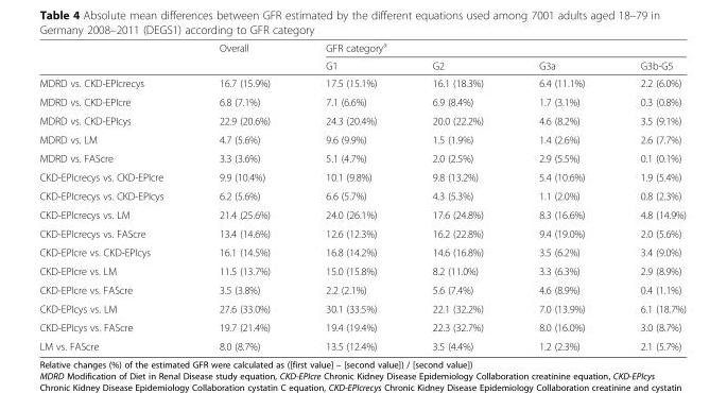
<table><thead><tr><td rowspan="2"></td><td rowspan="2">Overall</td><td colspan="4">GFR category<sup>a</sup></td></tr><tr><td>G1</td><td>G2</td><td>G3a</td><td>G3b-G5</td></tr></thead><tbody><tr><td>MDRD vs. CKD-EPIcrecys</td><td>16.7 (15.9%)</td><td>17.5 (15.1%)</td><td>16.1 (18.3%)</td><td>6.4 (11.1%)</td><td>2.2 (6.0%)</td></tr><tr><td>MDRD vs. CKD-EPIcre</td><td>6.8 (7.1%)</td><td>7.1 (6.6%)</td><td>6.9 (8.4%)</td><td>1.7 (3.1%)</td><td>0.3 (0.8%)</td></tr><tr><td>MDRD vs. CKD-EPIcys</td><td>22.9 (20.6%)</td><td>24.3 (20.4%)</td><td>20.0 (22.2%)</td><td>4.6 (8.2%)</td><td>3.5 (9.1%)</td></tr><tr><td>MDRD vs. LM</td><td>4.7 (5.6%)</td><td>9.6 (9.9%)</td><td>1.5 (1.9%)</td><td>1.4 (2.6%)</td><td>2.6 (7.7%)</td></tr><tr><td>MDRD vs. FAScre</td><td>3.3 (3.6%)</td><td>5.1 (4.7%)</td><td>2.0 (2.5%)</td><td>2.9 (5.5%)</td><td>0.1 (0.1%)</td></tr><tr><td>CKD-EPIcrecys vs. CKD-EPIcre</td><td>9.9 (10.4%)</td><td>10.1 (9.8%)</td><td>9.8 (13.2%)</td><td>5.4 (10.6%)</td><td>1.9 (5.4%)</td></tr><tr><td>CKD-EPIcrecys vs. CKD-EPIcys</td><td>6.2 (5.6%)</td><td>6.6 (5.7%)</td><td>4.3 (5.3%)</td><td>1.1 (2.0%)</td><td>0.8 (2.3%)</td></tr><tr><td>CKD-EPIcrecys vs. LM</td><td>21.4 (25.6%)</td><td>24.0 (26.1%)</td><td>17.6 (24.8%)</td><td>8.3 (16.6%)</td><td>4.8 (14.9%)</td></tr><tr><td>CKD-EPIcrecys vs. FAScre</td><td>13.4 (14.6%)</td><td>12.6 (12.3%)</td><td>16.2 (22.8%)</td><td>9.4 (19.0%)</td><td>2.0 (5.6%)</td></tr><tr><td>CKD-EPIcre vs. CKD-EPIcys</td><td>16.1 (14.5%)</td><td>16.8 (14.2%)</td><td>14.6 (16.8%)</td><td>3.5 (6.2%)</td><td>3.4 (9.0%)</td></tr><tr><td>CKD-EPIcre vs. LM</td><td>11.5 (13.7%)</td><td>15.0 (15.8%)</td><td>8.2 (11.0%)</td><td>3.3 (6.3%)</td><td>2.9 (8.9%)</td></tr><tr><td>CKD-EPIcre vs. FAScre</td><td>3.5 (3.8%)</td><td>2.2 (2.1%)</td><td>5.6 (7.4%)</td><td>4.6 (8.9%)</td><td>0.4 (1.1%)</td></tr><tr><td>CKD-EPIcys vs. LM</td><td>27.6 (33.0%)</td><td>30.1 (33.5%)</td><td>22.1 (32.2%)</td><td>7.0 (13.9%)</td><td>6.1 (18.7%)</td></tr><tr><td>CKD-EPIcys vs. FAScre</td><td>19.7 (21.4%)</td><td>19.4 (19.4%)</td><td>22.3 (32.7%)</td><td>8.0 (16.0%)</td><td>3.0 (8.7%)</td></tr><tr><td>LM vs. FAScre</td><td>8.0 (8.7%)</td><td>13.5 (12.4%)</td><td>3.5 (4.4%)</td><td>1.2 (2.3%)</td><td>2.1 (5.7%)</td></tr></tbody></table>